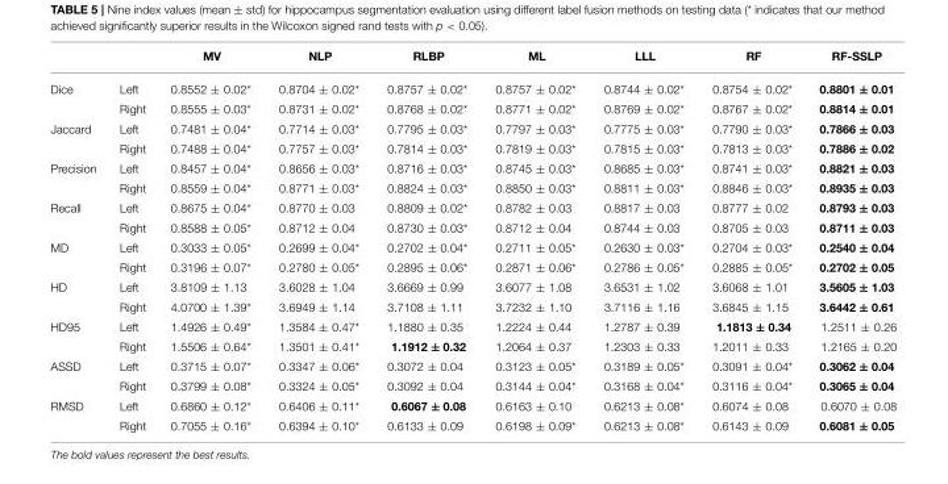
<table><thead><tr><td></td><td></td><td>MV</td><td>NLP</td><td>RLBP</td><td>ML</td><td>LLL</td><td>RF</td><td>RF-SSLP</td></tr></thead><tbody><tr><td rowspan="2">Dice</td><td>Left</td><td>0.8552 ± 0.02*</td><td>0.8704 ± 0.02*</td><td>0.8757 ± 0.02*</td><td>0.8757 ± 0.02*</td><td>0.8744 ± 0.02*</td><td>0.8754 ± 0.02*</td><td>0.8801 ± 0.01</td></tr><tr><td>Right</td><td>0.8555 ± 0.03*</td><td>0.8731 ± 0.02*</td><td>0.8768 ± 0.02*</td><td>0.8771 ± 0.02*</td><td>0.8769 ± 0.02*</td><td>0.8767 ± 0.02*</td><td>0.8814 ± 0.01</td></tr><tr><td rowspan="2">Jaccard</td><td>Left</td><td>0.7481 ± 0.04*</td><td>0.7714 ± 0.03*</td><td>0.7795 ± 0.03*</td><td>0.7797 ± 0.03*</td><td>0.7775 ± 0.03*</td><td>0.7790 ± 0.03*</td><td>0.7866 ± 0.03</td></tr><tr><td>Right</td><td>0.7488 ± 0.04*</td><td>0.7757 ± 0.03*</td><td>0.7814 ± 0.03*</td><td>0.7819 ± 0.03*</td><td>0.7815 ± 0.03*</td><td>0.7813 ± 0.03*</td><td>0.7886 ± 0.02</td></tr><tr><td rowspan="2">Precision</td><td>Left</td><td>0.8457 ± 0.04*</td><td>0.8656 ± 0.03*</td><td>0.8716 ± 0.03*</td><td>0.8745 ± 0.03*</td><td>0.8685 ± 0.03*</td><td>0.8741 ± 0.03*</td><td>0.8821 ± 0.03</td></tr><tr><td>Right</td><td>0.8559 ± 0.04*</td><td>0.8771 ± 0.03*</td><td>0.8824 ± 0.03*</td><td>0.8850 ± 0.03*</td><td>0.8811 ± 0.03*</td><td>0.8846 ± 0.03*</td><td>0.8935 ± 0.03</td></tr><tr><td rowspan="2">Recall</td><td>Left</td><td>0.8675 ± 0.04*</td><td>0.8770 ± 0.03</td><td>0.8809 ± 0.02*</td><td>0.8782 ± 0.03</td><td>0.8817 ± 0.03</td><td>0.8777 ± 0.02</td><td>0.8793 ± 0.03</td></tr><tr><td>Right</td><td>0.8588 ± 0.05*</td><td>0.8712 ± 0.04</td><td>0.8730 ± 0.03*</td><td>0.8712 ± 0.04</td><td>0.8744 ± 0.03</td><td>0.8705 ± 0.03</td><td>0.8711 ± 0.03</td></tr><tr><td rowspan="2">MD</td><td>Left</td><td>0.3033 ± 0.05*</td><td>0.2699 ± 0.04*</td><td>0.2702 ± 0.04*</td><td>0.2711 ± 0.05*</td><td>0.2630 ± 0.03*</td><td>0.2704 ± 0.03*</td><td>0.2540 ± 0.04</td></tr><tr><td>Right</td><td>0.3196 ± 0.07*</td><td>0.2780 ± 0.05*</td><td>0.2895 ± 0.06*</td><td>0.2871 ± 0.06*</td><td>0.2786 ± 0.05*</td><td>0.2885 ± 0.05*</td><td>0.2702 ± 0.05</td></tr><tr><td rowspan="2">HD</td><td>Left</td><td>3.8109 ± 1.13</td><td>3.6028 ± 1.04</td><td>3.6669 ± 0.99</td><td>3.6077 ± 1.08</td><td>3.6531 ± 1.02</td><td>3.6068 ± 1.01</td><td>3.5605 ± 1.03</td></tr><tr><td>Right</td><td>4.0700 ± 1.39*</td><td>3.6949 ± 1.14</td><td>3.7108 ± 1.11</td><td>3.7232 ± 1.10</td><td>3.7116 ± 1.16</td><td>3.6845 ± 1.15</td><td>3.6442 ± 0.61</td></tr><tr><td rowspan="2">HD95</td><td>Left</td><td>1.4926 ± 0.49*</td><td>1.3584 ± 0.47*</td><td>1.1880 ± 0.35</td><td>1.2224 ± 0.44</td><td>1.2787 ± 0.39</td><td>1.1813 ± 0.34</td><td>1.2511 ± 0.26</td></tr><tr><td>Right</td><td>1.5506 ± 0.64*</td><td>1.3501 ± 0.41*</td><td>1.1912 ± 0.32</td><td>1.2064 ± 0.37</td><td>1.2303 ± 0.33</td><td>1.2011 ± 0.33</td><td>1.2165 ± 0.20</td></tr><tr><td rowspan="2">ASSD</td><td>Left</td><td>0.3715 ± 0.07*</td><td>0.3347 ± 0.06*</td><td>0.3072 ± 0.04</td><td>0.3123 ± 0.05*</td><td>0.3189 ± 0.05*</td><td>0.3091 ± 0.04*</td><td>0.3062 ± 0.04</td></tr><tr><td>Right</td><td>0.3799 ± 0.08*</td><td>0.3324 ± 0.05*</td><td>0.3092 ± 0.04</td><td>0.3144 ± 0.04*</td><td>0.3168 ± 0.04*</td><td>0.3116 ± 0.04*</td><td>0.3065 ± 0.04</td></tr><tr><td rowspan="2">RMSD</td><td>Left</td><td>0.6860 ± 0.12*</td><td>0.6406 ± 0.11*</td><td>0.6067 ± 0.08</td><td>0.6163 ± 0.10</td><td>0.6213 ± 0.08*</td><td>0.6074 ± 0.08</td><td>0.6070 ± 0.08</td></tr><tr><td>Right</td><td>0.7055 ± 0.16*</td><td>0.6394 ± 0.10*</td><td>0.6133 ± 0.09</td><td>0.6198 ± 0.09*</td><td>0.6213 ± 0.08*</td><td>0.6143 ± 0.09</td><td>0.6081 ± 0.05</td></tr></tbody></table>